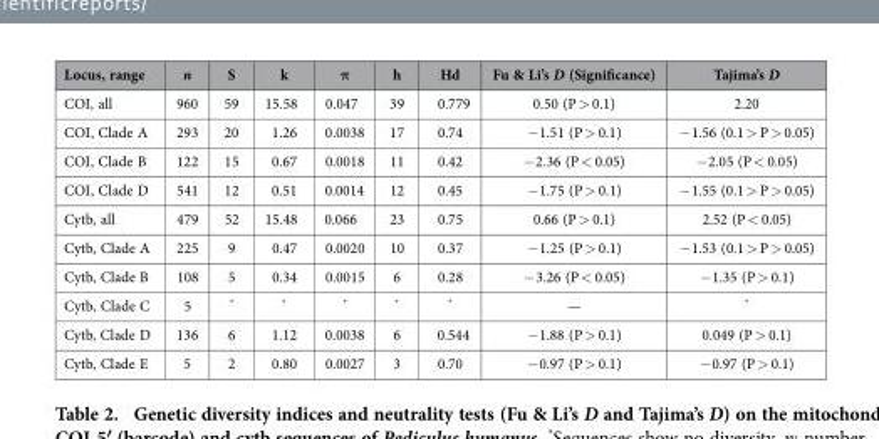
<table><thead><tr><td>Locus, range</td><td>n</td><td>S</td><td>k</td><td>π</td><td>h</td><td>Hd</td><td>Fu &amp; Li’s D (Significance)</td><td>Tajima’s D</td></tr></thead><tbody><tr><td>COI, all</td><td>960</td><td>59</td><td>15.58</td><td>0.047</td><td>39</td><td>0.779</td><td>0.50 (P &gt; 0.1)</td><td>2.20</td></tr><tr><td>COI, Clade A</td><td>293</td><td>20</td><td>1.26</td><td>0.0038</td><td>17</td><td>0.74</td><td>− 1.51 (P &gt; 0.1)</td><td>− 1.56 (0.1 &gt; P &gt; 0.05)</td></tr><tr><td>COI, Clade B</td><td>122</td><td>15</td><td>0.67</td><td>0.0018</td><td>11</td><td>0.42</td><td>− 2.36 (P &lt; 0.05)</td><td>− 2.05 (P &lt; 0.05)</td></tr><tr><td>COI, Clade D</td><td>541</td><td>12</td><td>0.51</td><td>0.0014</td><td>12</td><td>0.45</td><td>− 1.75 (P &gt; 0.1)</td><td>− 1.55 (0.1 &gt; P &gt; 0.05)</td></tr><tr><td>Cytb, all</td><td>479</td><td>52</td><td>15.48</td><td>0.066</td><td>23</td><td>0.75</td><td>0.66 (P &gt; 0.1)</td><td>2.52 (P &lt; 0.05)</td></tr><tr><td>Cytb, Clade A</td><td>225</td><td>9</td><td>0.47</td><td>0.0020</td><td>10</td><td>0.37</td><td>− 1.25 (P &gt; 0.1)</td><td>− 1.53 (0.1 &gt; P &gt; 0.05)</td></tr><tr><td>Cytb, Clade B</td><td>108</td><td>5</td><td>0.34</td><td>0.0015</td><td>6</td><td>0.28</td><td>− 3.26 (P &lt; 0.05)</td><td>− 1.35 (P &gt; 0.1)</td></tr><tr><td>Cytb, Clade C</td><td>5</td><td>*</td><td>*</td><td>*</td><td>*</td><td>*</td><td>—</td><td>*</td></tr><tr><td>Cytb, Clade D</td><td>136</td><td>6</td><td>1.12</td><td>0.0038</td><td>6</td><td>0.544</td><td>− 1.88 (P &gt; 0.1)</td><td>0.049 (P &gt; 0.1)</td></tr><tr><td>Cytb, Clade E</td><td>5</td><td>2</td><td>0.80</td><td>0.0027</td><td>3</td><td>0.70</td><td>− 0.97 (P &gt; 0.1)</td><td>− 0.97 (P &gt; 0.1)</td></tr></tbody></table>